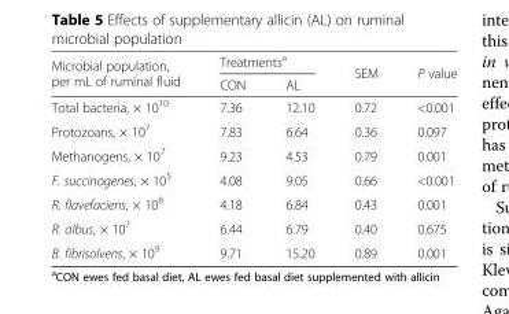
<table><thead><tr><td rowspan="2">Microbial population, per mL of ruminal fluid</td><td colspan="2">Treatments<sup>a</sup></td><td rowspan="2">SEM</td><td rowspan="2">P value</td></tr><tr><td>CON</td><td>AL</td></tr></thead><tbody><tr><td>Total bacteria, × 10<sup>10</sup></td><td>7.36</td><td>12.10</td><td>0.72</td><td>&lt;0.001</td></tr><tr><td>Protozoans, × 10<sup>7</sup></td><td>7.83</td><td>6.64</td><td>0.36</td><td>0.097</td></tr><tr><td>Methanogens, × 10<sup>7</sup></td><td>9.23</td><td>4.53</td><td>0.79</td><td>0.001</td></tr><tr><td>F. succinogenes, × 10<sup>5</sup></td><td>4.08</td><td>9.05</td><td>0.66</td><td>&lt;0.001</td></tr><tr><td>R. flavefaciens, × 10<sup>8</sup></td><td>4.18</td><td>6.84</td><td>0.43</td><td>0.001</td></tr><tr><td>R. albus, × 10<sup>7</sup></td><td>6.44</td><td>6.79</td><td>0.40</td><td>0.675</td></tr><tr><td>B. fibrisolvens, × 10<sup>9</sup></td><td>9.71</td><td>15.20</td><td>0.89</td><td>0.001</td></tr></tbody></table>